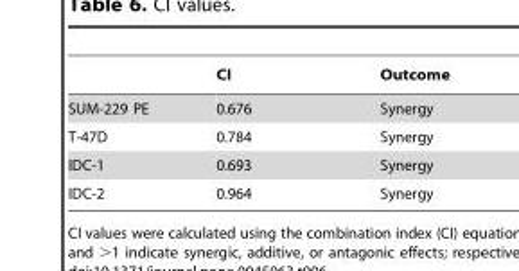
<table><thead><tr><td></td><td>CI</td><td>Outcome</td></tr></thead><tbody><tr><td>SUM-229 PE</td><td>0.676</td><td>Synergy</td></tr><tr><td>T-47D</td><td>0.784</td><td>Synergy</td></tr><tr><td>IDC-1</td><td>0.693</td><td>Synergy</td></tr><tr><td>IDC-2</td><td>0.964</td><td>Synergy</td></tr></tbody></table>